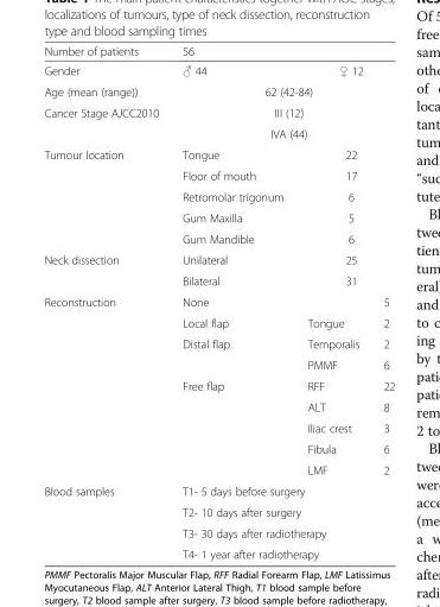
<table><thead><tr><td>Number of patients</td><td colspan="3">56</td></tr></thead><tbody><tr><td>Gender</td><td>♂ 44</td><td colspan="2">♀ 12</td></tr><tr><td>Age (mean (range))</td><td colspan="3">62 (42-84)</td></tr><tr><td rowspan="2">Cancer Stage AJCC2010</td><td colspan="3">III (12)</td></tr><tr><td colspan="3">IVA (44)</td></tr><tr><td rowspan="5">Tumour location</td><td>Tongue</td><td colspan="2">22</td></tr><tr><td>Floor of mouth</td><td colspan="2">17</td></tr><tr><td>Retromolar trigonum</td><td colspan="2">6</td></tr><tr><td>Gum Maxilla</td><td colspan="2">5</td></tr><tr><td>Gum Mandible</td><td colspan="2">6</td></tr><tr><td rowspan="2">Neck dissection</td><td>Unilateral</td><td colspan="2">25</td></tr><tr><td>Bilateral</td><td colspan="2">31</td></tr><tr><td rowspan="9">Reconstruction</td><td>None</td><td></td><td>5</td></tr><tr><td>Local flap</td><td>Tongue</td><td>2</td></tr><tr><td rowspan="2">Distal flap</td><td>Temporalis</td><td>2</td></tr><tr><td>PMMF</td><td>6</td></tr><tr><td rowspan="5">Free flap</td><td>RFF</td><td>22</td></tr><tr><td>ALT</td><td>8</td></tr><tr><td>Iliac crest</td><td>3</td></tr><tr><td>Fibula</td><td>6</td></tr><tr><td>LMF</td><td>2</td></tr><tr><td rowspan="4">Blood samples</td><td colspan="3">T1- 5 days before surgery</td></tr><tr><td colspan="3">T2- 10 days after surgery</td></tr><tr><td colspan="3">T3- 30 days after radiotherapy</td></tr><tr><td colspan="3">T4- 1 year after radiotherapy</td></tr></tbody></table>